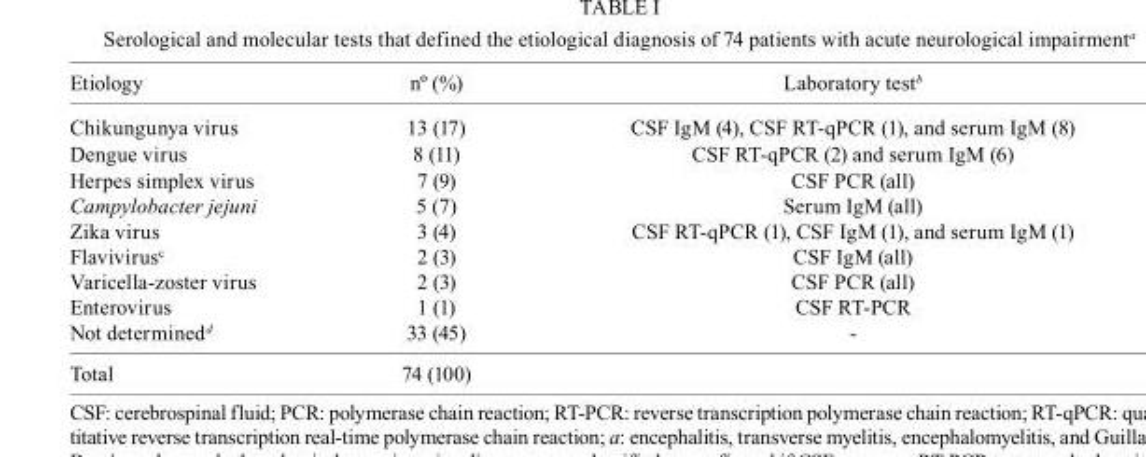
<table><tbody><tr><td>Etiology</td><td>nº (%)</td><td>Laboratory test<sup>b</sup></td></tr><tr><td>Chikungunya virus</td><td>13 (17)</td><td>CSF IgM (4), CSF RT-qPCR (1), and serum IgM (8)</td></tr><tr><td>Dengue virus</td><td>8 (11)</td><td>CSF RT-qPCR (2) and serum IgM (6)</td></tr><tr><td>Herpes simplex virus</td><td>7 (9)</td><td>CSF PCR (all)</td></tr><tr><td>Campylobacter jejuni</td><td>5 (7)</td><td>Serum IgM (all)</td></tr><tr><td>Zika virus</td><td>3 (4)</td><td>CSF RT-qPCR (1), CSF IgM (1), and serum IgM (1)</td></tr><tr><td>Flavivirus<sup>c</sup></td><td>2 (3)</td><td>CSF IgM (all)</td></tr><tr><td>Varicella-zoster virus</td><td>2 (3)</td><td>CSF PCR (all)</td></tr><tr><td>Enterovirus</td><td>1 (1)</td><td>CSF RT-PCR</td></tr><tr><td>Not determined<sup>d</sup></td><td>33 (45)</td><td>-</td></tr><tr><td>Total</td><td>74 (100)</td><td></td></tr></tbody></table>